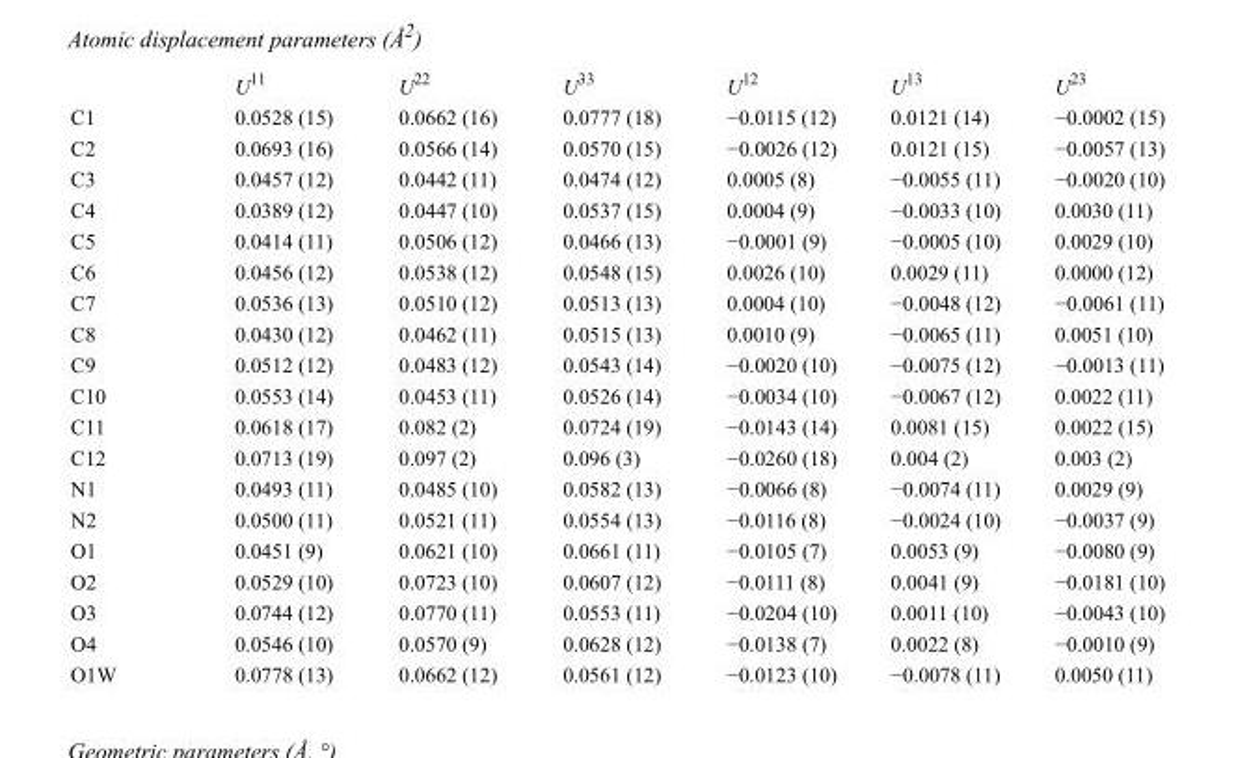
<table><thead><tr><td></td><td>U<sup>11</sup></td><td>U<sup>22</sup></td><td>U<sup>33</sup></td><td>U<sup>12</sup></td><td>U<sup>13</sup></td><td>U<sup>23</sup></td></tr></thead><tbody><tr><td>C1</td><td>0.0528 (15)</td><td>0.0662 (16)</td><td>0.0777 (18)</td><td>−0.0115 (12)</td><td>0.0121 (14)</td><td>−0.0002 (15)</td></tr><tr><td>C2</td><td>0.0693 (16)</td><td>0.0566 (14)</td><td>0.0570 (15)</td><td>−0.0026 (12)</td><td>0.0121 (15)</td><td>−0.0057 (13)</td></tr><tr><td>C3</td><td>0.0457 (12)</td><td>0.0442 (11)</td><td>0.0474 (12)</td><td>0.0005 (8)</td><td>−0.0055 (11)</td><td>−0.0020 (10)</td></tr><tr><td>C4</td><td>0.0389 (12)</td><td>0.0447 (10)</td><td>0.0537 (15)</td><td>0.0004 (9)</td><td>−0.0033 (10)</td><td>0.0030 (11)</td></tr><tr><td>C5</td><td>0.0414 (11)</td><td>0.0506 (12)</td><td>0.0466 (13)</td><td>−0.0001 (9)</td><td>−0.0005 (10)</td><td>0.0029 (10)</td></tr><tr><td>C6</td><td>0.0456 (12)</td><td>0.0538 (12)</td><td>0.0548 (15)</td><td>0.0026 (10)</td><td>0.0029 (11)</td><td>0.0000 (12)</td></tr><tr><td>C7</td><td>0.0536 (13)</td><td>0.0510 (12)</td><td>0.0513 (13)</td><td>0.0004 (10)</td><td>−0.0048 (12)</td><td>−0.0061 (11)</td></tr><tr><td>C8</td><td>0.0430 (12)</td><td>0.0462 (11)</td><td>0.0515 (13)</td><td>0.0010 (9)</td><td>−0.0065 (11)</td><td>0.0051 (10)</td></tr><tr><td>C9</td><td>0.0512 (12)</td><td>0.0483 (12)</td><td>0.0543 (14)</td><td>−0.0020 (10)</td><td>−0.0075 (12)</td><td>−0.0013 (11)</td></tr><tr><td>C10</td><td>0.0553 (14)</td><td>0.0453 (11)</td><td>0.0526 (14)</td><td>−0.0034 (10)</td><td>−0.0067 (12)</td><td>0.0022 (11)</td></tr><tr><td>C11</td><td>0.0618 (17)</td><td>0.082 (2)</td><td>0.0724 (19)</td><td>−0.0143 (14)</td><td>0.0081 (15)</td><td>0.0022 (15)</td></tr><tr><td>C12</td><td>0.0713 (19)</td><td>0.097 (2)</td><td>0.096 (3)</td><td>−0.0260 (18)</td><td>0.004 (2)</td><td>0.003 (2)</td></tr><tr><td>N1</td><td>0.0493 (11)</td><td>0.0485 (10)</td><td>0.0582 (13)</td><td>−0.0066 (8)</td><td>−0.0074 (11)</td><td>0.0029 (9)</td></tr><tr><td>N2</td><td>0.0500 (11)</td><td>0.0521 (11)</td><td>0.0554 (13)</td><td>−0.0116 (8)</td><td>−0.0024 (10)</td><td>−0.0037 (9)</td></tr><tr><td>O1</td><td>0.0451 (9)</td><td>0.0621 (10)</td><td>0.0661 (11)</td><td>−0.0105 (7)</td><td>0.0053 (9)</td><td>−0.0080 (9)</td></tr><tr><td>O2</td><td>0.0529 (10)</td><td>0.0723 (10)</td><td>0.0607 (12)</td><td>−0.0111 (8)</td><td>0.0041 (9)</td><td>−0.0181 (10)</td></tr><tr><td>O3</td><td>0.0744 (12)</td><td>0.0770 (11)</td><td>0.0553 (11)</td><td>−0.0204 (10)</td><td>0.0011 (10)</td><td>−0.0043 (10)</td></tr><tr><td>O4</td><td>0.0546 (10)</td><td>0.0570 (9)</td><td>0.0628 (12)</td><td>−0.0138 (7)</td><td>0.0022 (8)</td><td>−0.0010 (9)</td></tr><tr><td>O1W</td><td>0.0778 (13)</td><td>0.0662 (12)</td><td>0.0561 (12)</td><td>−0.0123 (10)</td><td>−0.0078 (11)</td><td>0.0050 (11)</td></tr></tbody></table>